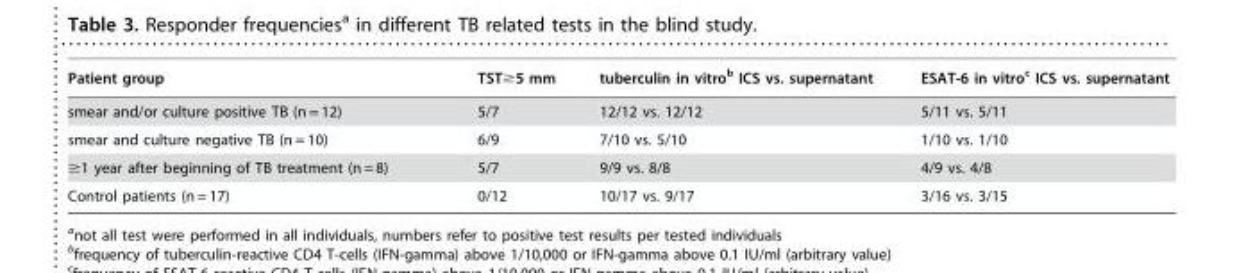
<table><thead><tr><td>Patient group</td><td>TST≥5 mm</td><td>tuberculin in vitro<sup>b</sup> ICS vs. supernatant</td><td>ESAT-6 in vitro<sup>c</sup> ICS vs. supernatant</td></tr></thead><tbody><tr><td>smear and/or culture positive TB (n = 12)</td><td>5/7</td><td>12/12 vs. 12/12</td><td>5/11 vs. 5/11</td></tr><tr><td>smear and culture negative TB (n = 10)</td><td>6/9</td><td>7/10 vs. 5/10</td><td>1/10 vs. 1/10</td></tr><tr><td>≥1 year after beginning of TB treatment (n = 8)</td><td>5/7</td><td>9/9 vs. 8/8</td><td>4/9 vs. 4/8</td></tr><tr><td>Control patients (n = 17)</td><td>0/12</td><td>10/17 vs. 9/17</td><td>3/16 vs. 3/15</td></tr></tbody></table>